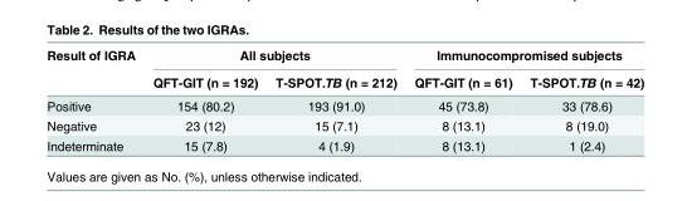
<table><thead><tr><td rowspan="2">Result of IGRA</td><td colspan="2">All subjects</td><td colspan="2">Immunocompromised subjects</td></tr><tr><td>QFT-GIT (n = 192)</td><td>T-SPOT.TB (n = 212)</td><td>QFT-GIT (n = 61)</td><td>T-SPOT.TB (n = 42)</td></tr></thead><tbody><tr><td>Positive</td><td>154 (80.2)</td><td>193 (91.0)</td><td>45 (73.8)</td><td>33 (78.6)</td></tr><tr><td>Negative</td><td>23 (12)</td><td>15 (7.1)</td><td>8 (13.1)</td><td>8 (19.0)</td></tr><tr><td>Indeterminate</td><td>15 (7.8)</td><td>4 (1.9)</td><td>8 (13.1)</td><td>1 (2.4)</td></tr></tbody></table>